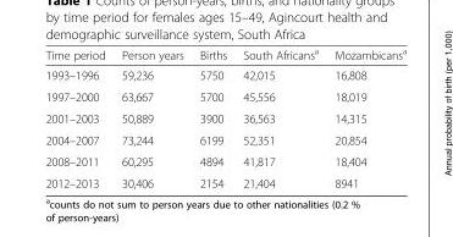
<table><thead><tr><td>Time period</td><td>Person years</td><td>Births</td><td>South Africans<sup>a</sup></td><td>Mozambicans<sup>a</sup></td></tr></thead><tbody><tr><td>1993–1996</td><td>59,236</td><td>5750</td><td>42,015</td><td>16,808</td></tr><tr><td>1997–2000</td><td>63,667</td><td>5700</td><td>45,556</td><td>18,019</td></tr><tr><td>2001–2003</td><td>50,889</td><td>3900</td><td>36,563</td><td>14,315</td></tr><tr><td>2004–2007</td><td>73,244</td><td>6199</td><td>52,351</td><td>20,854</td></tr><tr><td>2008–2011</td><td>60,295</td><td>4894</td><td>41,817</td><td>18,404</td></tr><tr><td>2012–2013</td><td>30,406</td><td>2154</td><td>21,404</td><td>8941</td></tr></tbody></table>